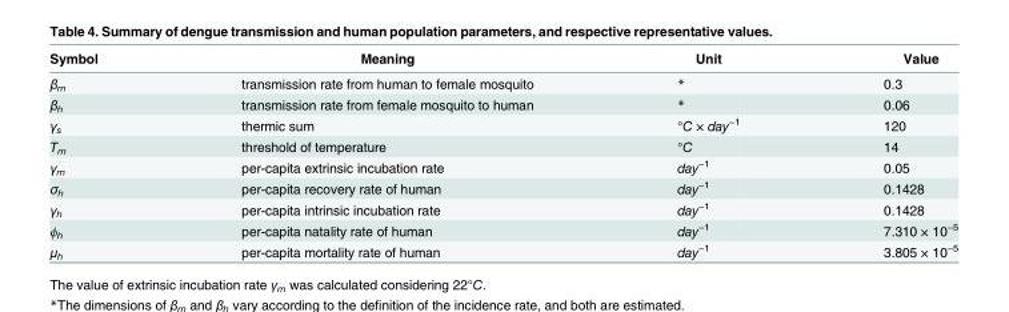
<table><thead><tr><td>Symbol</td><td>Meaning</td><td>Unit</td><td>Value</td></tr></thead><tbody><tr><td>β<sub>m</sub></td><td>transmission rate from human to female mosquito</td><td>*</td><td>0.3</td></tr><tr><td>β<sub>h</sub></td><td>transmission rate from female mosquito to human</td><td>*</td><td>0.06</td></tr><tr><td>γ<sub>s</sub></td><td>thermic sum</td><td>°C × day<sup>−1</sup></td><td>120</td></tr><tr><td>T<sub>m</sub></td><td>threshold of temperature</td><td>°C</td><td>14</td></tr><tr><td>γ<sub>m</sub></td><td>per-capita extrinsic incubation rate</td><td>day<sup>−1</sup></td><td>0.05</td></tr><tr><td>σ<sub>h</sub></td><td>per-capita recovery rate of human</td><td>day<sup>−1</sup></td><td>0.1428</td></tr><tr><td>γ<sub>h</sub></td><td>per-capita intrinsic incubation rate</td><td>day<sup>−1</sup></td><td>0.1428</td></tr><tr><td>ϕ<sub>h</sub></td><td>per-capita natality rate of human</td><td>day<sup>−1</sup></td><td>7.310 × 10<sup>−5</sup></td></tr><tr><td>μ<sub>h</sub></td><td>per-capita mortality rate of human</td><td>day<sup>−1</sup></td><td>3.805 × 10<sup>−5</sup></td></tr></tbody></table>